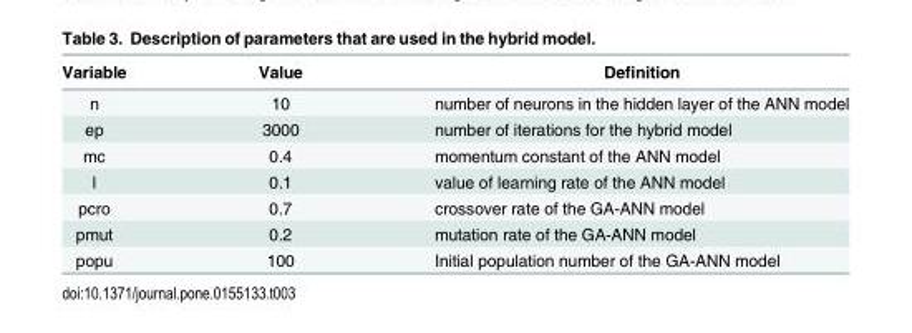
<table><thead><tr><td>Variable</td><td>Value</td><td>Definition</td></tr></thead><tbody><tr><td>n</td><td>10</td><td>number of neurons in the hidden layer of the ANN model</td></tr><tr><td>ep</td><td>3000</td><td>number of iterations for the hybrid model</td></tr><tr><td>mc</td><td>0.4</td><td>momentum constant of the ANN model</td></tr><tr><td>l</td><td>0.1</td><td>value of learning rate of the ANN model</td></tr><tr><td>pcro</td><td>0.7</td><td>crossover rate of the GA-ANN model</td></tr><tr><td>pmut</td><td>0.2</td><td>mutation rate of the GA-ANN model</td></tr><tr><td>popu</td><td>100</td><td>Initial population number of the GA-ANN model</td></tr></tbody></table>